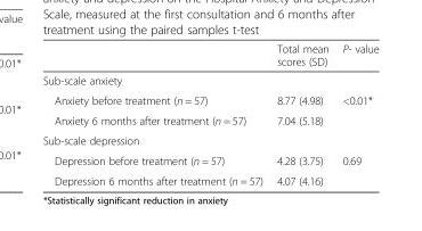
<table><thead><tr><td></td><td>Total mean scores (SD)</td><td>P- value</td></tr></thead><tbody><tr><td colspan="3">Sub-scale anxiety</td></tr><tr><td>Anxiety before treatment (n = 57)</td><td>8.77 (4.98)</td><td rowspan="2">&lt;0.01*</td></tr><tr><td>Anxiety 6 months after treatment (n = 57)</td><td>7.04 (5.18)</td></tr><tr><td colspan="3">Sub-scale depression</td></tr><tr><td>Depression before treatment (n = 57)</td><td>4.28 (3.75)</td><td rowspan="2">0.69</td></tr><tr><td>Depression 6 months after treatment (n = 57)</td><td>4.07 (4.16)</td></tr></tbody></table>